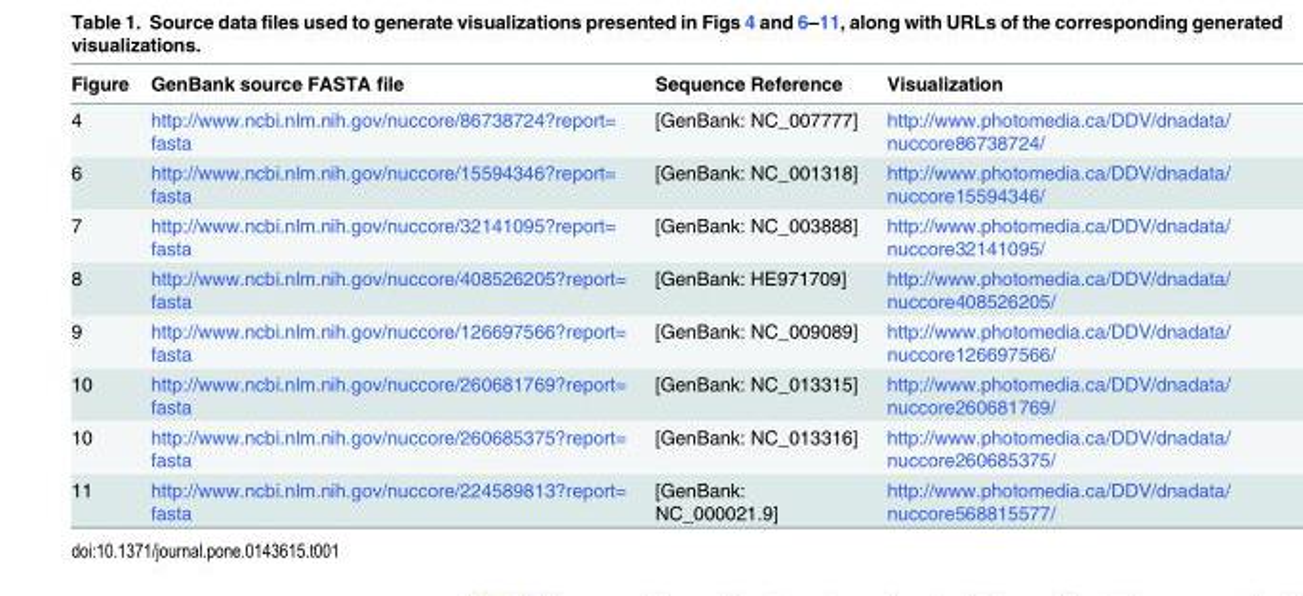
<table><thead><tr><td>Figure</td><td>GenBank source FASTA file</td><td>Sequence Reference</td><td>Visualization</td></tr></thead><tbody><tr><td>4</td><td>http://www.ncbi.nlm.nih.gov/nuccore/86738724?report= fasta</td><td>[GenBank: NC_007777]</td><td>http://www.photomedia.ca/DDV/dnadata/ nuccore86738724/</td></tr><tr><td>6</td><td>http://www.ncbi.nlm.nih.gov/nuccore/15594346?report= fasta</td><td>[GenBank: NC_001318]</td><td>http://www.photomedia.ca/DDV/dnadata/ nuccore15594346/</td></tr><tr><td>7</td><td>http://www.ncbi.nlm.nih.gov/nuccore/32141095?report= fasta</td><td>[GenBank: NC_003888]</td><td>http://www.photomedia.ca/DDV/dnadata/ nuccore32141095/</td></tr><tr><td>8</td><td>http://www.ncbi.nlm.nih.gov/nuccore/408526205?report= fasta</td><td>[GenBank: HE971709]</td><td>http://www.photomedia.ca/DDV/dnadata/ nuccore408526205/</td></tr><tr><td>9</td><td>http://www.ncbi.nlm.nih.gov/nuccore/126697566?report= fasta</td><td>[GenBank: NC_009089]</td><td>http://www.photomedia.ca/DDV/dnadata/ nuccore126697566/</td></tr><tr><td>10</td><td>http://www.ncbi.nlm.nih.gov/nuccore/260681769?report= fasta</td><td>[GenBank: NC_013315]</td><td>http://www.photomedia.ca/DDV/dnadata/ nuccore260681769/</td></tr><tr><td>10</td><td>http://www.ncbi.nlm.nih.gov/nuccore/260685375?report= fasta</td><td>[GenBank: NC_013316]</td><td>http://www.photomedia.ca/DDV/dnadata/ nuccore260685375/</td></tr><tr><td>11</td><td>http://www.ncbi.nlm.nih.gov/nuccore/224589813?report= fasta</td><td>[GenBank: NC_000021.9]</td><td>http://www.photomedia.ca/DDV/dnadata/ nuccore568815577/</td></tr></tbody></table>